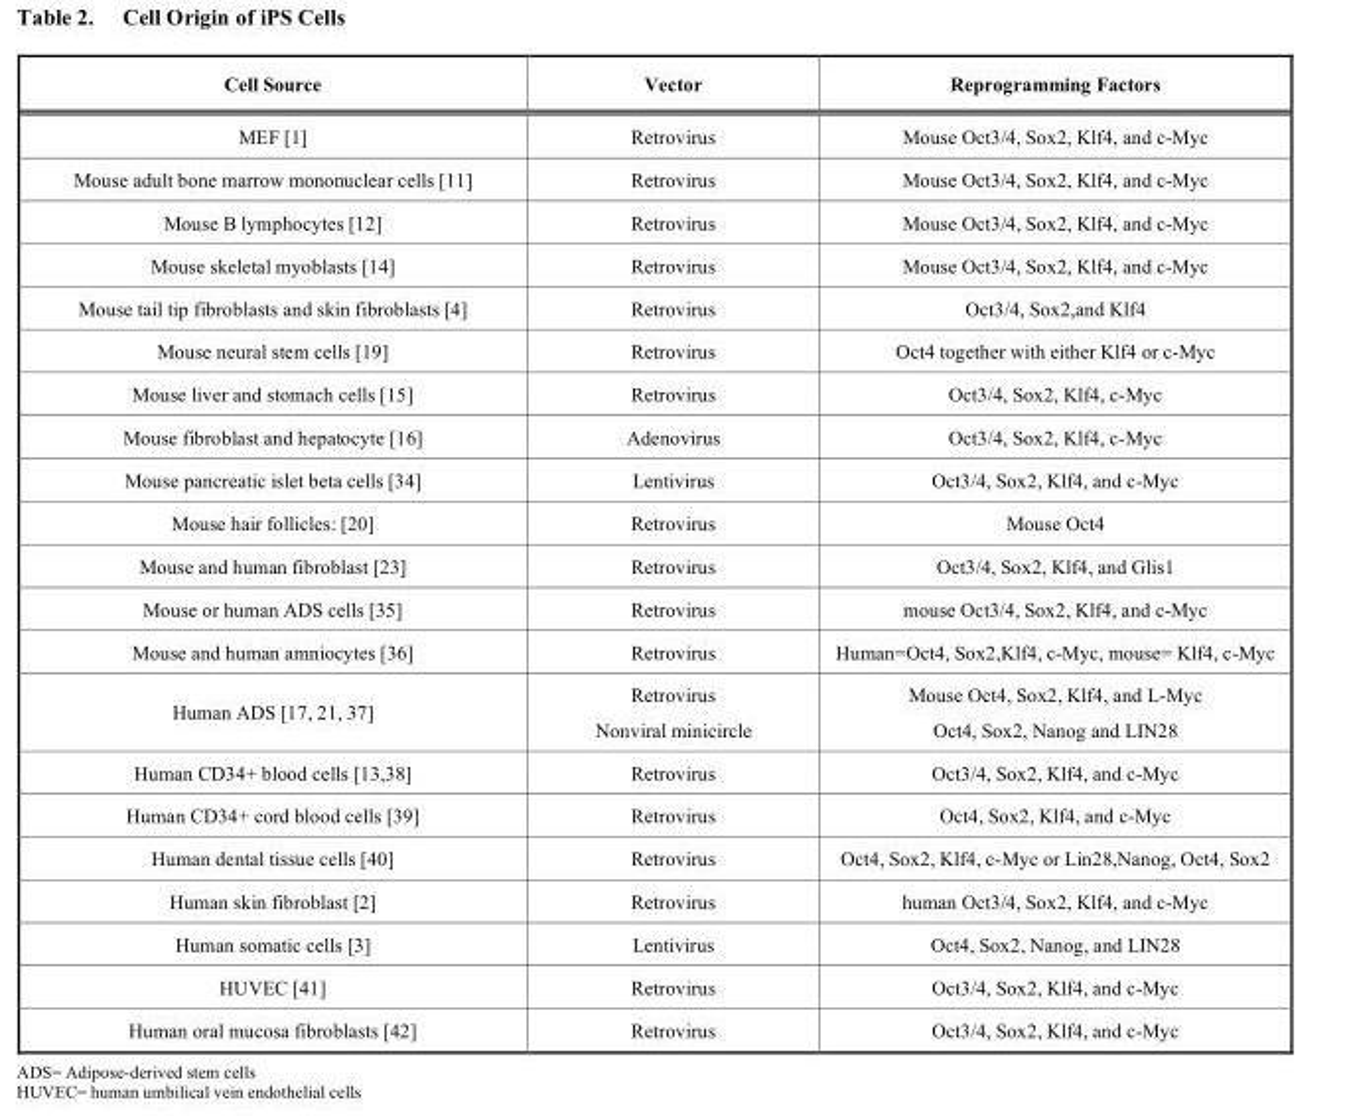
<table><thead><tr><td>Cell Source</td><td>Vector</td><td>Reprogramming Factors</td></tr></thead><tbody><tr><td>MEF [1]</td><td>Retrovirus</td><td>Mouse Oct3/4, Sox2, Klf4, and c-Myc</td></tr><tr><td>Mouse adult bone marrow mononuclear cells [11]</td><td>Retrovirus</td><td>Mouse Oct3/4, Sox2, Klf4, and c-Myc</td></tr><tr><td>Mouse B lymphocytes [12]</td><td>Retrovirus</td><td>Mouse Oct3/4, Sox2, Klf4, and c-Myc</td></tr><tr><td>Mouse skeletal myoblasts [14]</td><td>Retrovirus</td><td>Mouse Oct3/4, Sox2, Klf4, and c-Myc</td></tr><tr><td>Mouse tail tip fibroblasts and skin fibroblasts [4]</td><td>Retrovirus</td><td>Oct3/4, Sox2,and Klf4</td></tr><tr><td>Mouse neural stem cells [19]</td><td>Retrovirus</td><td>Oct4 together with either Klf4 or c-Myc</td></tr><tr><td>Mouse liver and stomach cells [15]</td><td>Retrovirus</td><td>Oct3/4, Sox2, Klf4, c-Myc</td></tr><tr><td>Mouse fibroblast and hepatocyte [16]</td><td>Adenovirus</td><td>Oct3/4, Sox2, Klf4, c-Myc</td></tr><tr><td>Mouse pancreatic islet beta cells [34]</td><td>Lentivirus</td><td>Oct3/4, Sox2, Klf4, and c-Myc</td></tr><tr><td>Mouse hair follicles: [20]</td><td>Retrovirus</td><td>Mouse Oct4</td></tr><tr><td>Mouse and human fibroblast [23]</td><td>Retrovirus</td><td>Oct3/4, Sox2, Klf4, and Glis1</td></tr><tr><td>Mouse or human ADS cells [35]</td><td>Retrovirus</td><td>mouse Oct3/4, Sox2, Klf4, and c-Myc</td></tr><tr><td>Mouse and human amniocytes [36]</td><td>Retrovirus</td><td>Human=Oct4, Sox2,Klf4, c-Myc, mouse= Klf4, c-Myc</td></tr><tr><td>Human ADS [17, 21, 37]</td><td>Retrovirus Nonviral minicircle</td><td>Mouse Oct4, Sox2, Klf4, and L-Myc Oct4, Sox2, Nanog and LIN28</td></tr><tr><td>Human CD34+ blood cells [13,38]</td><td>Retrovirus</td><td>Oct3/4, Sox2, Klf4, and c-Myc</td></tr><tr><td>Human CD34+ cord blood cells [39]</td><td>Retrovirus</td><td>Oct4, Sox2, Klf4, and c-Myc</td></tr><tr><td>Human dental tissue cells [40]</td><td>Retrovirus</td><td>Oct4, Sox2, Klf4, c-Myc or Lin28,Nanog, Oct4, Sox2</td></tr><tr><td>Human skin fibroblast [2]</td><td>Retrovirus</td><td>human Oct3/4, Sox2, Klf4, and c-Myc</td></tr><tr><td>Human somatic cells [3]</td><td>Lentivirus</td><td>Oct4, Sox2, Nanog, and LIN28</td></tr><tr><td>HUVEC [41]</td><td>Retrovirus</td><td>Oct3/4, Sox2, Klf4, and c-Myc</td></tr><tr><td>Human oral mucosa fibroblasts [42]</td><td>Retrovirus</td><td>Oct3/4, Sox2, Klf4, and c-Myc</td></tr></tbody></table>